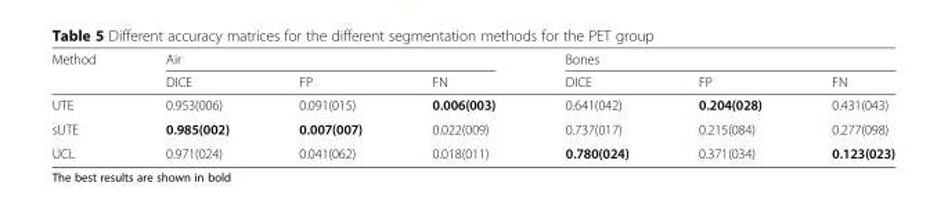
<table><thead><tr><td rowspan="2">Method</td><td colspan="3">Air</td><td colspan="3">Bones</td></tr><tr><td>DICE</td><td>FP</td><td>FN</td><td>DICE</td><td>FP</td><td>FN</td></tr></thead><tbody><tr><td>UTE</td><td>0.953(006)</td><td>0.091(015)</td><td>0.006(003)</td><td>0.641(042)</td><td>0.204(028)</td><td>0.431(043)</td></tr><tr><td>sUTE</td><td>0.985(002)</td><td>0.007(007)</td><td>0.022(009)</td><td>0.737(017)</td><td>0.215(084)</td><td>0.277(098)</td></tr><tr><td>UCL</td><td>0.971(024)</td><td>0.041(062)</td><td>0.018(011)</td><td>0.780(024)</td><td>0.371(034)</td><td>0.123(023)</td></tr></tbody></table>